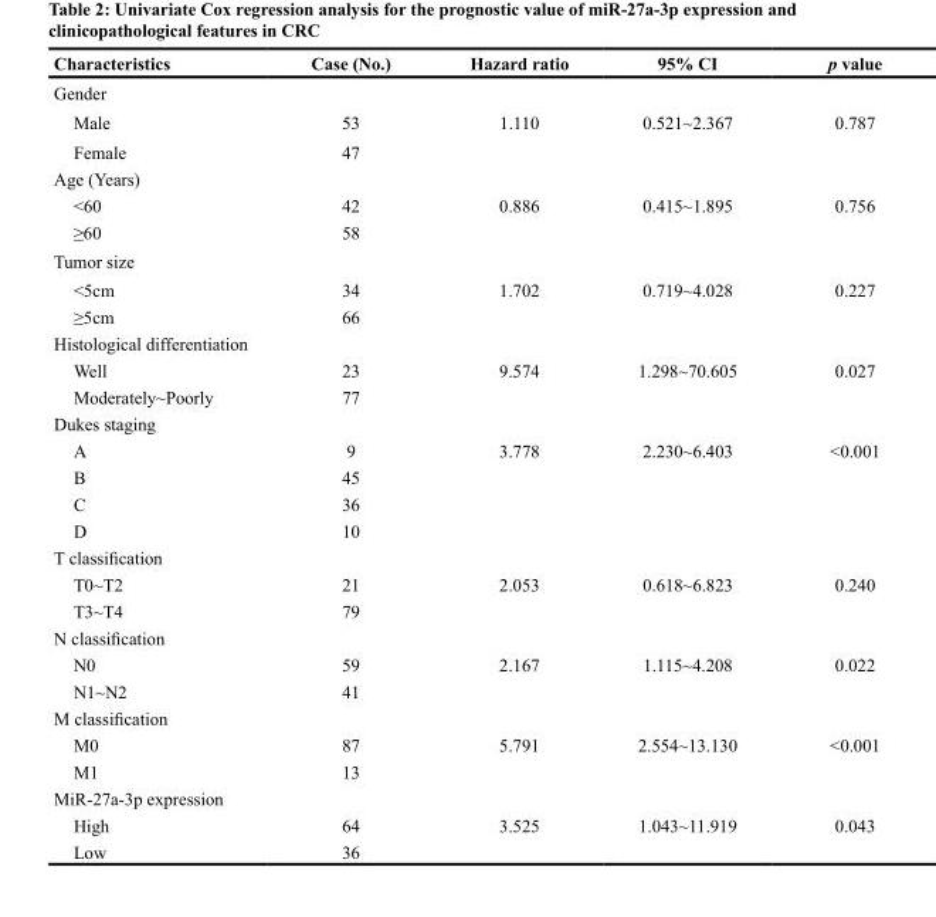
<table><thead><tr><td>Characteristics</td><td>Case (No.)</td><td>Hazard ratio</td><td>95% CI</td><td>p value</td></tr></thead><tbody><tr><td colspan="5">Gender</td></tr><tr><td>Male</td><td>53</td><td>1.110</td><td>0.521~2.367</td><td>0.787</td></tr><tr><td>Female</td><td>47</td><td></td><td></td><td></td></tr><tr><td colspan="5">Age (Years)</td></tr><tr><td>&lt;60</td><td>42</td><td>0.886</td><td>0.415~1.895</td><td>0.756</td></tr><tr><td>≥60</td><td>58</td><td></td><td></td><td></td></tr><tr><td colspan="5">Tumor size</td></tr><tr><td>&lt;5cm</td><td>34</td><td>1.702</td><td>0.719~4.028</td><td>0.227</td></tr><tr><td>≥5cm</td><td>66</td><td></td><td></td><td></td></tr><tr><td colspan="5">Histological differentiation</td></tr><tr><td>Well</td><td>23</td><td>9.574</td><td>1.298~70.605</td><td>0.027</td></tr><tr><td>Moderately~Poorly</td><td>77</td><td></td><td></td><td></td></tr><tr><td colspan="5">Dukes staging</td></tr><tr><td>A</td><td>9</td><td>3.778</td><td>2.230~6.403</td><td>&lt;0.001</td></tr><tr><td>B</td><td>45</td><td></td><td></td><td></td></tr><tr><td>C</td><td>36</td><td></td><td></td><td></td></tr><tr><td>D</td><td>10</td><td></td><td></td><td></td></tr><tr><td colspan="5">T classification</td></tr><tr><td>T0~T2</td><td>21</td><td>2.053</td><td>0.618~6.823</td><td>0.240</td></tr><tr><td>T3~T4</td><td>79</td><td></td><td></td><td></td></tr><tr><td colspan="5">N classification</td></tr><tr><td>N0</td><td>59</td><td>2.167</td><td>1.115~4.208</td><td>0.022</td></tr><tr><td>N1~N2</td><td>41</td><td></td><td></td><td></td></tr><tr><td colspan="5">M classification</td></tr><tr><td>M0</td><td>87</td><td>5.791</td><td>2.554~13.130</td><td>&lt;0.001</td></tr><tr><td>M1</td><td>13</td><td></td><td></td><td></td></tr><tr><td colspan="5">MiR-27a-3p expression</td></tr><tr><td>High</td><td>64</td><td>3.525</td><td>1.043~11.919</td><td>0.043</td></tr><tr><td>Low</td><td>36</td><td></td><td></td><td></td></tr></tbody></table>